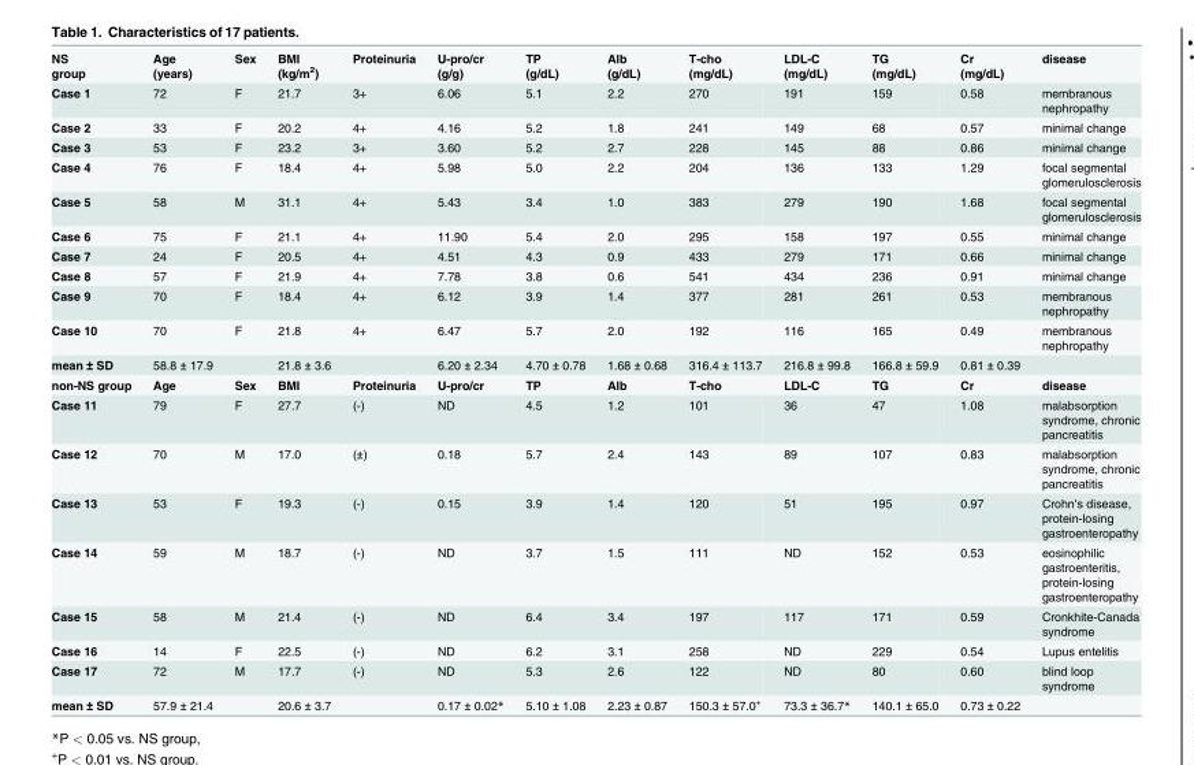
<table><tbody><tr><td>NS group</td><td>Age (years)</td><td>Sex</td><td>BMI (kg/m<sup>2</sup>)</td><td>Proteinuria</td><td>U-pro/cr (g/g)</td><td>TP (g/dL)</td><td>Alb (g/dL)</td><td>T-cho (mg/dL)</td><td>LDL-C (mg/dL)</td><td>TG (mg/dL)</td><td>Cr (mg/dL)</td><td>disease</td></tr><tr><td>Case 1</td><td>72</td><td>F</td><td>21.7</td><td>3+</td><td>6.06</td><td>5.1</td><td>2.2</td><td>270</td><td>191</td><td>159</td><td>0.58</td><td>membranous nephropathy</td></tr><tr><td>Case 2</td><td>33</td><td>F</td><td>20.2</td><td>4+</td><td>4.16</td><td>5.2</td><td>1.8</td><td>241</td><td>149</td><td>68</td><td>0.57</td><td>minimal change</td></tr><tr><td>Case 3</td><td>53</td><td>F</td><td>23.2</td><td>3+</td><td>3.60</td><td>5.2</td><td>2.7</td><td>228</td><td>145</td><td>88</td><td>0.86</td><td>minimal change</td></tr><tr><td>Case 4</td><td>76</td><td>F</td><td>18.4</td><td>4+</td><td>5.98</td><td>5.0</td><td>2.2</td><td>204</td><td>136</td><td>133</td><td>1.29</td><td>focal segmental glomerulosclerosis</td></tr><tr><td>Case 5</td><td>58</td><td>M</td><td>31.1</td><td>4+</td><td>5.43</td><td>3.4</td><td>1.0</td><td>383</td><td>279</td><td>190</td><td>1.68</td><td>focal segmental glomerulosclerosis</td></tr><tr><td>Case 6</td><td>75</td><td>F</td><td>21.1</td><td>4+</td><td>11.90</td><td>5.4</td><td>2.0</td><td>295</td><td>158</td><td>197</td><td>0.55</td><td>minimal change</td></tr><tr><td>Case 7</td><td>24</td><td>F</td><td>20.5</td><td>4+</td><td>4.51</td><td>4.3</td><td>0.9</td><td>433</td><td>279</td><td>171</td><td>0.66</td><td>minimal change</td></tr><tr><td>Case 8</td><td>57</td><td>F</td><td>21.9</td><td>4+</td><td>7.78</td><td>3.8</td><td>0.6</td><td>541</td><td>434</td><td>236</td><td>0.91</td><td>minimal change</td></tr><tr><td>Case 9</td><td>70</td><td>F</td><td>18.4</td><td>4+</td><td>6.12</td><td>3.9</td><td>1.4</td><td>377</td><td>281</td><td>261</td><td>0.53</td><td>membranous nephropathy</td></tr><tr><td>Case 10</td><td>70</td><td>F</td><td>21.8</td><td>4+</td><td>6.47</td><td>5.7</td><td>2.0</td><td>192</td><td>116</td><td>165</td><td>0.49</td><td>membranous nephropathy</td></tr><tr><td>mean ± SD</td><td>58.8 ± 17.9</td><td></td><td>21.8 ± 3.6</td><td></td><td>6.20 ± 2.34</td><td>4.70 ± 0.78</td><td>1.68 ± 0.68</td><td>316.4 ± 113.7</td><td>216.8 ± 99.8</td><td>166.8 ± 59.9</td><td>0.81 ± 0.39</td><td></td></tr><tr><td>non-NS group</td><td>Age</td><td>Sex</td><td>BMI</td><td>Proteinuria</td><td>U-pro/cr</td><td>TP</td><td>Alb</td><td>T-cho</td><td>LDL-C</td><td>TG</td><td>Cr</td><td>disease</td></tr><tr><td>Case 11</td><td>79</td><td>F</td><td>27.7</td><td>(-)</td><td>ND</td><td>4.5</td><td>1.2</td><td>101</td><td>36</td><td>47</td><td>1.08</td><td>malabsorption syndrome, chronic pancreatitis</td></tr><tr><td>Case 12</td><td>70</td><td>M</td><td>17.0</td><td>(±)</td><td>0.18</td><td>5.7</td><td>2.4</td><td>143</td><td>89</td><td>107</td><td>0.83</td><td>malabsorption syndrome, chronic pancreatitis</td></tr><tr><td>Case 13</td><td>53</td><td>F</td><td>19.3</td><td>(-)</td><td>0.15</td><td>3.9</td><td>1.4</td><td>120</td><td>51</td><td>195</td><td>0.97</td><td>Crohn&#x27;s disease, protein-losing gastroenteropathy</td></tr><tr><td>Case 14</td><td>59</td><td>M</td><td>18.7</td><td>(-)</td><td>ND</td><td>3.7</td><td>1.5</td><td>111</td><td>ND</td><td>152</td><td>0.53</td><td>eosinophilic gastroenteritis, protein-losing gastroenteropathy</td></tr><tr><td>Case 15</td><td>58</td><td>M</td><td>21.4</td><td>(-)</td><td>ND</td><td>6.4</td><td>3.4</td><td>197</td><td>117</td><td>171</td><td>0.59</td><td>Cronkhite-Canada syndrome</td></tr><tr><td>Case 16</td><td>14</td><td>F</td><td>22.5</td><td>(-)</td><td>ND</td><td>6.2</td><td>3.1</td><td>258</td><td>ND</td><td>229</td><td>0.54</td><td>Lupus entelitis</td></tr><tr><td>Case 17</td><td>72</td><td>M</td><td>17.7</td><td>(-)</td><td>ND</td><td>5.3</td><td>2.6</td><td>122</td><td>ND</td><td>80</td><td>0.60</td><td>blind loop syndrome</td></tr><tr><td>mean ± SD</td><td>57.9 ± 21.4</td><td></td><td>20.6 ± 3.7</td><td></td><td>0.17 ± 0.02*</td><td>5.10 ± 1.08</td><td>2.23 ± 0.87</td><td>150.3 ± 57.0<sup>+</sup></td><td>73.3 ± 36.7*</td><td>140.1 ± 65.0</td><td>0.73 ± 0.22</td><td></td></tr></tbody></table>